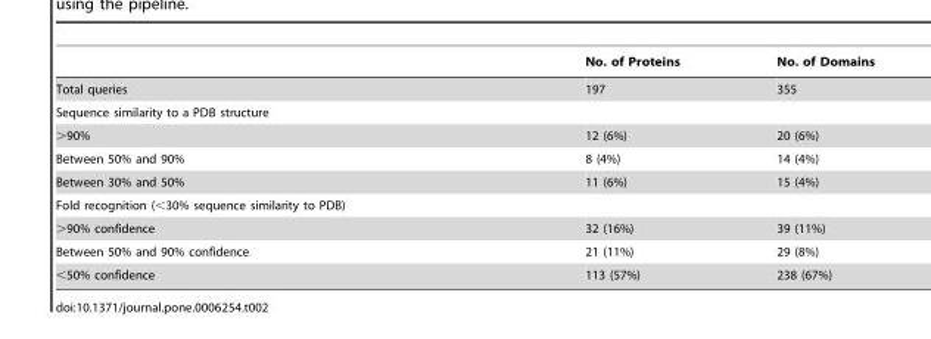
<table><thead><tr><td></td><td>No. of Proteins</td><td>No. of Domains</td></tr></thead><tbody><tr><td>Total queries</td><td>197</td><td>355</td></tr><tr><td colspan="3">Sequence similarity to a PDB structure</td></tr><tr><td>&gt;90%</td><td>12 (6%)</td><td>20 (6%)</td></tr><tr><td>Between 50% and 90%</td><td>8 (4%)</td><td>14 (4%)</td></tr><tr><td>Between 30% and 50%</td><td>11 (6%)</td><td>15 (4%)</td></tr><tr><td colspan="3">Fold recognition (&lt;30% sequence similarity to PDB)</td></tr><tr><td>&gt;90% confidence</td><td>32 (16%)</td><td>39 (11%)</td></tr><tr><td>Between 50% and 90% confidence</td><td>21 (11%)</td><td>29 (8%)</td></tr><tr><td>&lt;50% confidence</td><td>113 (57%)</td><td>238 (67%)</td></tr></tbody></table>